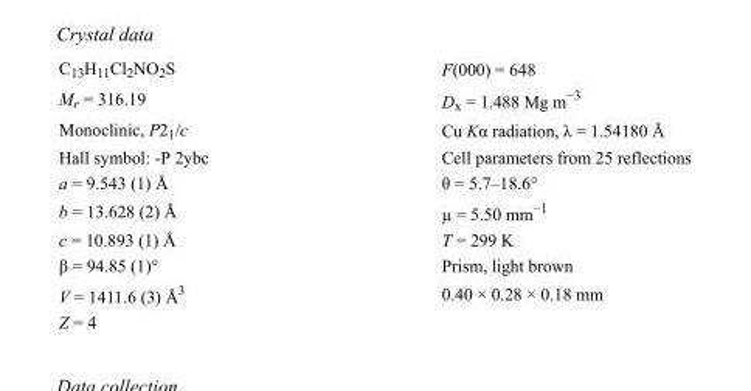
<table><tbody><tr><td>C<sub>13</sub>H<sub>11</sub>Cl<sub>2</sub>NO<sub>2</sub>S</td><td>F(000) = 648</td></tr><tr><td>M<sub>r</sub> = 316.19</td><td>D<sub>x</sub> = 1.488 Mg m<sup>−3</sup></td></tr><tr><td>Monoclinic, P2<sub>1</sub>/c</td><td>Cu Kα radiation, λ = 1.54180 Å</td></tr><tr><td>Hall symbol: -P 2ybc</td><td>Cell parameters from 25 reflections</td></tr><tr><td>a = 9.543 (1) Å</td><td>θ = 5.7–18.6°</td></tr><tr><td>b = 13.628 (2) Å</td><td>µ = 5.50 mm<sup>−1</sup></td></tr><tr><td>c = 10.893 (1) Å</td><td>T = 299 K</td></tr><tr><td>β = 94.85 (1)°</td><td>Prism, light brown</td></tr><tr><td>V = 1411.6 (3) Å<sup>3</sup></td><td>0.40 × 0.28 × 0.18 mm</td></tr><tr><td>Z = 4</td><td></td></tr></tbody></table>